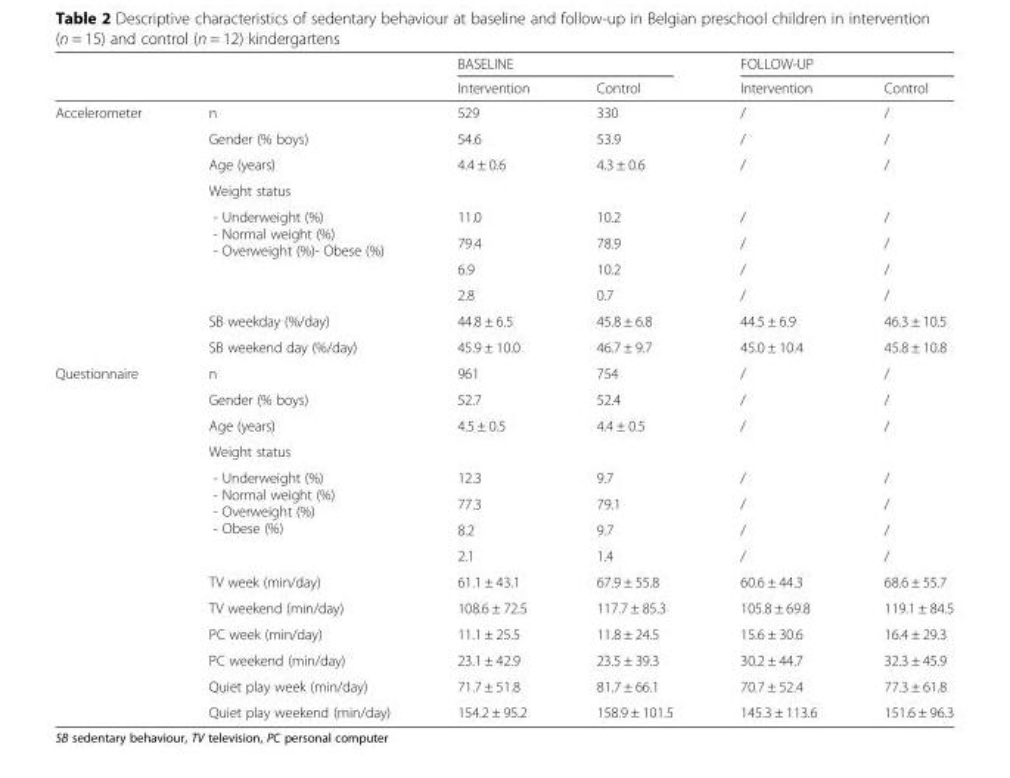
<table><thead><tr><td rowspan="2"></td><td rowspan="2"></td><td colspan="2">BASELINE</td><td colspan="2">FOLLOW-UP</td></tr><tr><td>Intervention</td><td>Control</td><td>Intervention</td><td>Control</td></tr></thead><tbody><tr><td rowspan="10">Accelerometer</td><td>n</td><td>529</td><td>330</td><td>/</td><td>/</td></tr><tr><td>Gender (% boys)</td><td>54.6</td><td>53.9</td><td>/</td><td>/</td></tr><tr><td>Age (years)</td><td>4.4 ± 0.6</td><td>4.3 ± 0.6</td><td>/</td><td>/</td></tr><tr><td>Weight status</td><td></td><td></td><td></td><td></td></tr><tr><td rowspan="4">- Underweight (%) - Normal weight (%) - Overweight (%)- Obese (%)</td><td>11.0</td><td>10.2</td><td>/</td><td>/</td></tr><tr><td>79.4</td><td>78.9</td><td>/</td><td>/</td></tr><tr><td>6.9</td><td>10.2</td><td>/</td><td>/</td></tr><tr><td>2.8</td><td>0.7</td><td>/</td><td>/</td></tr><tr><td>SB weekday (%/day)</td><td>44.8 ± 6.5</td><td>45.8 ± 6.8</td><td>44.5 ± 6.9</td><td>46.3 ± 10.5</td></tr><tr><td>SB weekend day (%/day)</td><td>45.9 ± 10.0</td><td>46.7 ± 9.7</td><td>45.0 ± 10.4</td><td>45.8 ± 10.8</td></tr><tr><td rowspan="14">Questionnaire</td><td>n</td><td>961</td><td>754</td><td>/</td><td>/</td></tr><tr><td>Gender (% boys)</td><td>52.7</td><td>52.4</td><td>/</td><td>/</td></tr><tr><td>Age (years)</td><td>4.5 ± 0.5</td><td>4.4 ± 0.5</td><td>/</td><td>/</td></tr><tr><td>Weight status</td><td></td><td></td><td></td><td></td></tr><tr><td rowspan="4">- Underweight (%) - Normal weight (%) - Overweight (%) - Obese (%)</td><td>12.3</td><td>9.7</td><td>/</td><td>/</td></tr><tr><td>77.3</td><td>79.1</td><td>/</td><td>/</td></tr><tr><td>8.2</td><td>9.7</td><td>/</td><td>/</td></tr><tr><td>2.1</td><td>1.4</td><td>/</td><td>/</td></tr><tr><td>TV week (min/day)</td><td>61.1 ± 43.1</td><td>67.9 ± 55.8</td><td>60.6 ± 44.3</td><td>68.6 ± 55.7</td></tr><tr><td>TV weekend (min/day)</td><td>108.6 ± 72.5</td><td>117.7 ± 85.3</td><td>105.8 ± 69.8</td><td>119.1 ± 84.5</td></tr><tr><td>PC week (min/day)</td><td>11.1 ± 25.5</td><td>11.8 ± 24.5</td><td>15.6 ± 30.6</td><td>16.4 ± 29.3</td></tr><tr><td>PC weekend (min/day)</td><td>23.1 ± 42.9</td><td>23.5 ± 39.3</td><td>30.2 ± 44.7</td><td>32.3 ± 45.9</td></tr><tr><td>Quiet play week (min/day)</td><td>71.7 ± 51.8</td><td>81.7 ± 66.1</td><td>70.7 ± 52.4</td><td>77.3 ± 61.8</td></tr><tr><td>Quiet play weekend (min/day)</td><td>154.2 ± 95.2</td><td>158.9 ± 101.5</td><td>145.3 ± 113.6</td><td>151.6 ± 96.3</td></tr></tbody></table>